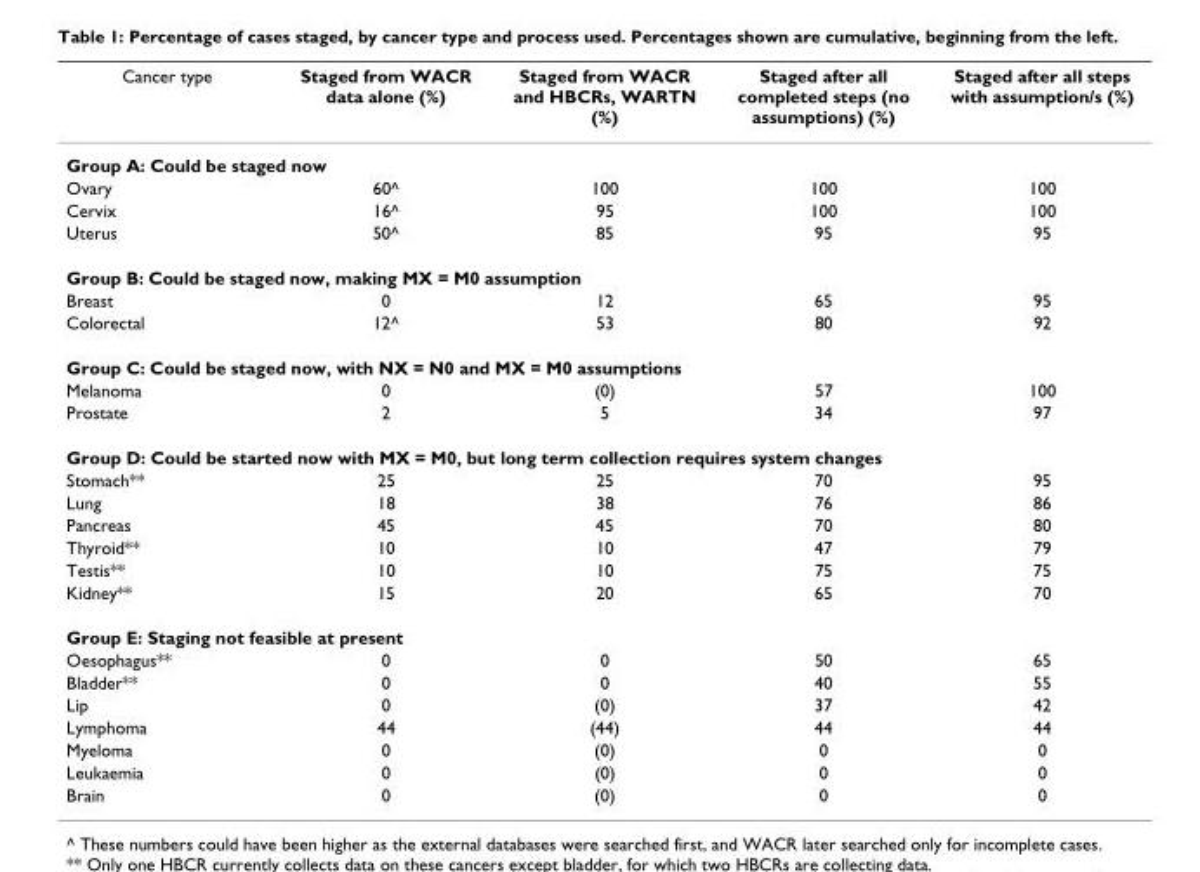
<table><thead><tr><td>Cancer type</td><td>Staged from WACR data alone (%)</td><td>Staged from WACR and HBCRs, WARTN (%)</td><td>Staged after all completed steps (no assumptions) (%)</td><td>Staged after all steps with assumption/s (%)</td></tr></thead><tbody><tr><td colspan="5">Group A: Could be staged now</td></tr><tr><td>Ovary</td><td>60^</td><td>100</td><td>100</td><td>100</td></tr><tr><td>Cervix</td><td>16^</td><td>95</td><td>100</td><td>100</td></tr><tr><td>Uterus</td><td>50^</td><td>85</td><td>95</td><td>95</td></tr><tr><td colspan="5">Group B: Could be staged now, making MX = M0 assumption</td></tr><tr><td>Breast</td><td>0</td><td>12</td><td>65</td><td>95</td></tr><tr><td>Colorectal</td><td>12^</td><td>53</td><td>80</td><td>92</td></tr><tr><td colspan="5">Group C: Could be staged now, with NX = N0 and MX = M0 assumptions</td></tr><tr><td>Melanoma</td><td>0</td><td>(0)</td><td>57</td><td>100</td></tr><tr><td>Prostate</td><td>2</td><td>5</td><td>34</td><td>97</td></tr><tr><td colspan="5">Group D: Could be started now with MX = M0, but long term collection requires system changes</td></tr><tr><td>Stomach**</td><td>25</td><td>25</td><td>70</td><td>95</td></tr><tr><td>Lung</td><td>18</td><td>38</td><td>76</td><td>86</td></tr><tr><td>Pancreas</td><td>45</td><td>45</td><td>70</td><td>80</td></tr><tr><td>Thyroid**</td><td>10</td><td>10</td><td>47</td><td>79</td></tr><tr><td>Testis**</td><td>10</td><td>10</td><td>75</td><td>75</td></tr><tr><td>Kidney**</td><td>15</td><td>20</td><td>65</td><td>70</td></tr><tr><td colspan="5">Group E: Staging not feasible at present</td></tr><tr><td>Oesophagus**</td><td>0</td><td>0</td><td>50</td><td>65</td></tr><tr><td>Bladder**</td><td>0</td><td>0</td><td>40</td><td>55</td></tr><tr><td>Lip</td><td>0</td><td>(0)</td><td>37</td><td>42</td></tr><tr><td>Lymphoma</td><td>44</td><td>(44)</td><td>44</td><td>44</td></tr><tr><td>Myeloma</td><td>0</td><td>(0)</td><td>0</td><td>0</td></tr><tr><td>Leukaemia</td><td>0</td><td>(0)</td><td>0</td><td>0</td></tr><tr><td>Brain</td><td>0</td><td>(0)</td><td>0</td><td>0</td></tr></tbody></table>